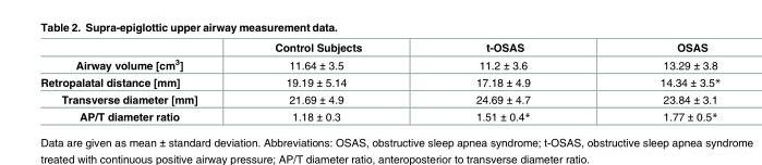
<table><thead><tr><td></td><td>Control Subjects</td><td>t-OSAS</td><td>OSAS</td></tr></thead><tbody><tr><td>Airway volume [cm<sup>3</sup>]</td><td>11.64 ± 3.5</td><td>11.2 ± 3.6</td><td>13.29 ± 3.8</td></tr><tr><td>Retropalatal distance [mm]</td><td>19.19 ± 5.14</td><td>17.18 ± 4.9</td><td>14.34 ± 3.5*</td></tr><tr><td>Transverse diameter [mm]</td><td>21.69 ± 4.9</td><td>24.69 ± 4.7</td><td>23.84 ± 3.1</td></tr><tr><td>AP/T diameter ratio</td><td>1.18 ± 0.3</td><td>1.51 ± 0.4*</td><td>1.77 ± 0.5*</td></tr></tbody></table>